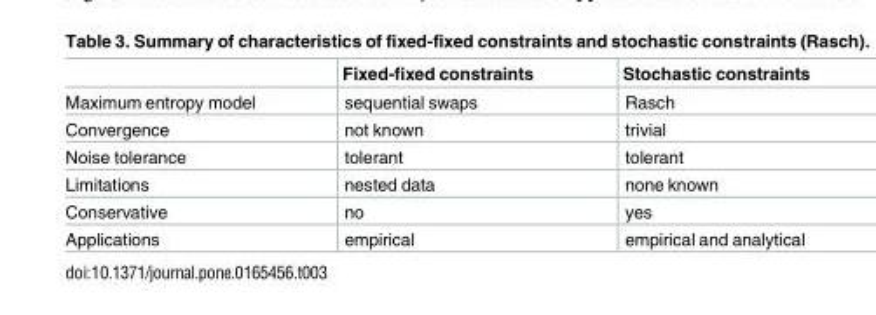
<table><thead><tr><td></td><td>Fixed-fixed constraints</td><td>Stochastic constraints</td></tr></thead><tbody><tr><td>Maximum entropy model</td><td>sequential swaps</td><td>Rasch</td></tr><tr><td>Convergence</td><td>not known</td><td>trivial</td></tr><tr><td>Noise tolerance</td><td>tolerant</td><td>tolerant</td></tr><tr><td>Limitations</td><td>nested data</td><td>none known</td></tr><tr><td>Conservative</td><td>no</td><td>yes</td></tr><tr><td>Applications</td><td>empirical</td><td>empirical and analytical</td></tr></tbody></table>